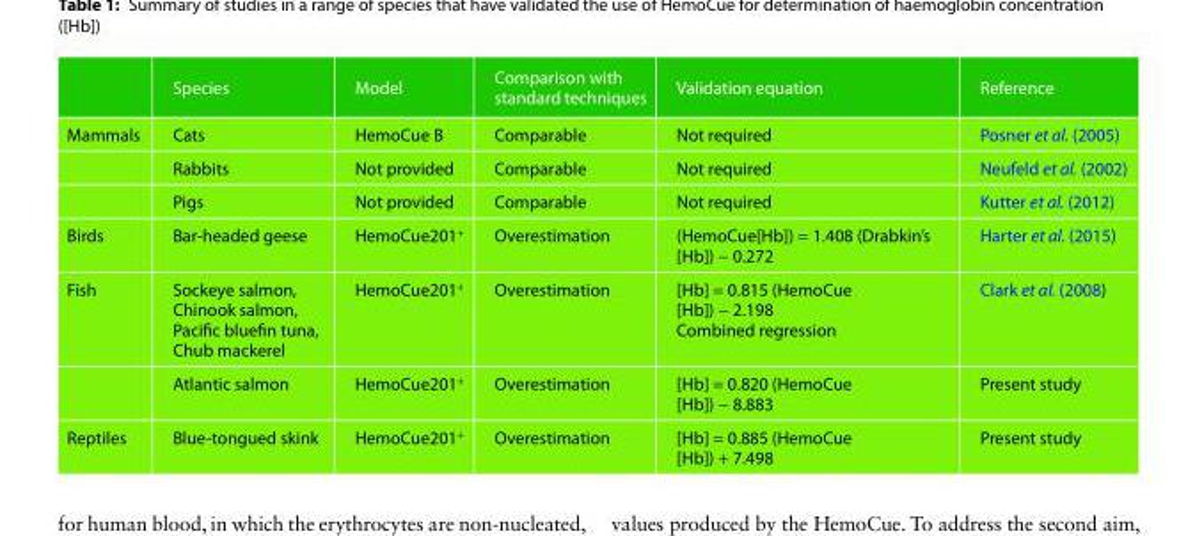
<table><thead><tr><td></td><td>Species</td><td>Model</td><td>Comparison with standard techniques</td><td>Validation equation</td><td>Reference</td></tr></thead><tbody><tr><td rowspan="3">Mammals</td><td>Cats</td><td>HemoCue B</td><td>Comparable</td><td>Not required</td><td>Posner et al. (2005)</td></tr><tr><td>Rabbits</td><td>Not provided</td><td>Comparable</td><td>Not required</td><td>Neufeld et al. (2002)</td></tr><tr><td>Pigs</td><td>Not provided</td><td>Comparable</td><td>Not required</td><td>Kutter et al. (2012)</td></tr><tr><td>Birds</td><td>Bar-headed geese</td><td>HemoCue201<sup>+</sup></td><td>Overestimation</td><td>(HemoCue[Hb]) = 1.408 (Drabkin’s [Hb]) − 0.272</td><td>Harter et al. (2015)</td></tr><tr><td rowspan="2">Fish</td><td>Sockeye salmon, Chinook salmon, Pacific bluefin tuna, Chub mackerel</td><td>HemoCue201<sup>+</sup></td><td>Overestimation</td><td>[Hb] = 0.815 (HemoCue [Hb]) − 2.198 Combined regression</td><td>Clark et al. (2008)</td></tr><tr><td>Atlantic salmon</td><td>HemoCue201<sup>+</sup></td><td>Overestimation</td><td>[Hb] = 0.820 (HemoCue [Hb]) − 8.883</td><td>Present study</td></tr><tr><td>Reptiles</td><td>Blue-tongued skink</td><td>HemoCue201<sup>+</sup></td><td>Overestimation</td><td>[Hb] = 0.885 (HemoCue [Hb]) + 7.498</td><td>Present study</td></tr></tbody></table>